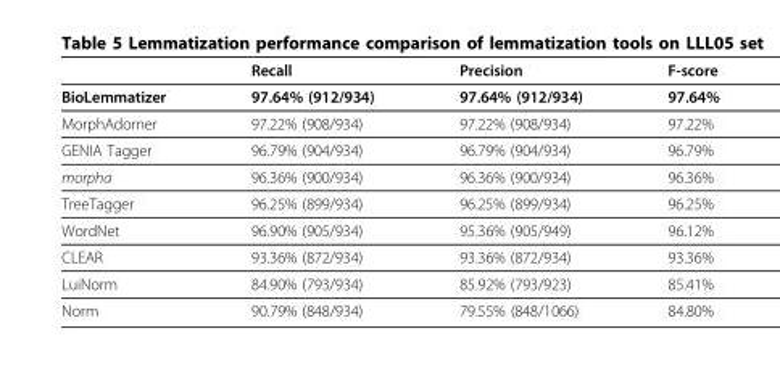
<table><thead><tr><td></td><td>Recall</td><td>Precision</td><td>F-score</td></tr></thead><tbody><tr><td>BioLemmatizer</td><td>97.64% (912/934)</td><td>97.64% (912/934)</td><td>97.64%</td></tr><tr><td>MorphAdorner</td><td>97.22% (908/934)</td><td>97.22% (908/934)</td><td>97.22%</td></tr><tr><td>GENIA Tagger</td><td>96.79% (904/934)</td><td>96.79% (904/934)</td><td>96.79%</td></tr><tr><td>morpha</td><td>96.36% (900/934)</td><td>96.36% (900/934)</td><td>96.36%</td></tr><tr><td>TreeTagger</td><td>96.25% (899/934)</td><td>96.25% (899/934)</td><td>96.25%</td></tr><tr><td>WordNet</td><td>96.90% (905/934)</td><td>95.36% (905/949)</td><td>96.12%</td></tr><tr><td>CLEAR</td><td>93.36% (872/934)</td><td>93.36% (872/934)</td><td>93.36%</td></tr><tr><td>LuiNorm</td><td>84.90% (793/934)</td><td>85.92% (793/923)</td><td>85.41%</td></tr><tr><td>Norm</td><td>90.79% (848/934)</td><td>79.55% (848/1066)</td><td>84.80%</td></tr></tbody></table>